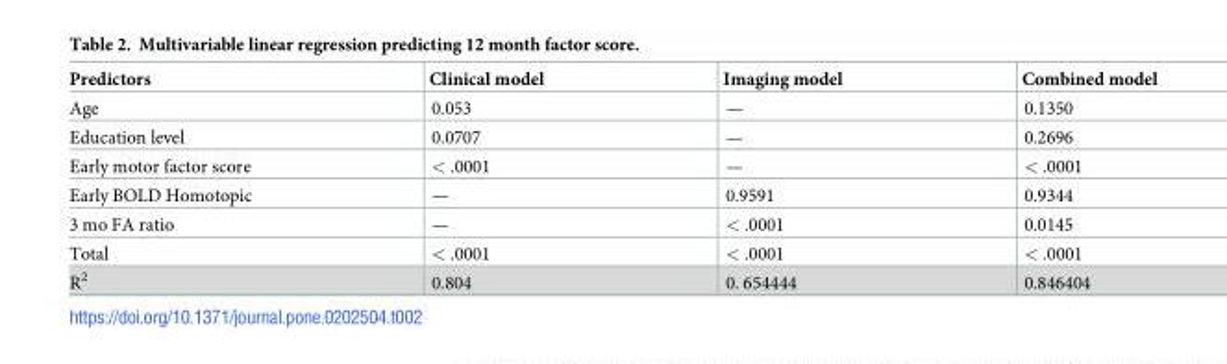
<table><thead><tr><td>Predictors</td><td>Clinical model</td><td>Imaging model</td><td>Combined model</td></tr></thead><tbody><tr><td>Age</td><td>0.053</td><td>—</td><td>0.1350</td></tr><tr><td>Education level</td><td>0.0707</td><td>—</td><td>0.2696</td></tr><tr><td>Early motor factor score</td><td>&lt; .0001</td><td>—</td><td>&lt; .0001</td></tr><tr><td>Early BOLD Homotopic</td><td>—</td><td>0.9591</td><td>0.9344</td></tr><tr><td>3 mo FA ratio</td><td>—</td><td>&lt; .0001</td><td>0.0145</td></tr><tr><td>Total</td><td>&lt; .0001</td><td>&lt; .0001</td><td>&lt; .0001</td></tr><tr><td>R<sup>2</sup></td><td>0.804</td><td>0. 654444</td><td>0.846404</td></tr></tbody></table>